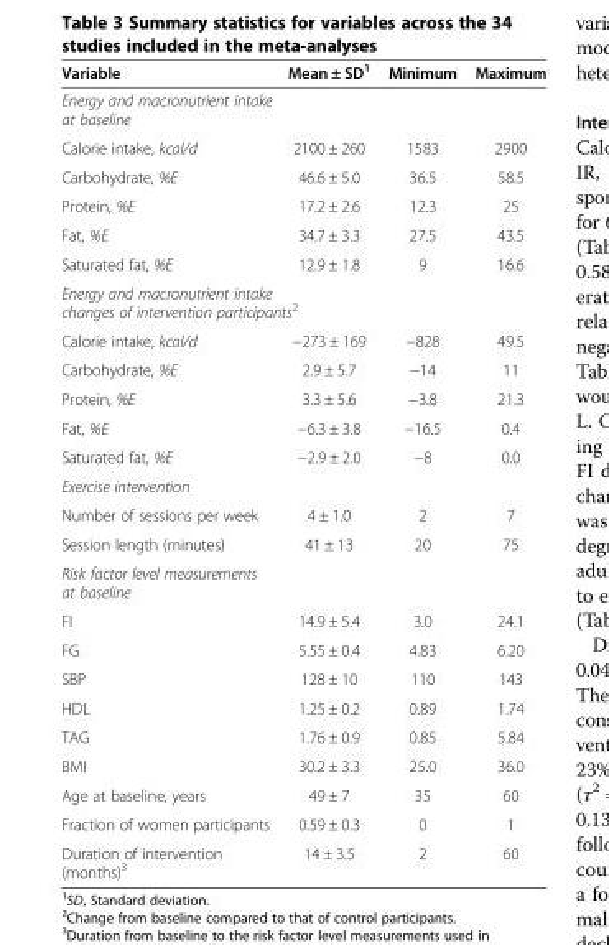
<table><thead><tr><td>Variable</td><td>Mean ± SD<sup>1</sup></td><td>Minimum</td><td>Maximum</td></tr></thead><tbody><tr><td colspan="4">Energy and macronutrient intake at baseline</td></tr><tr><td>Calorie intake, kcal/d</td><td>2100 ± 260</td><td>1583</td><td>2900</td></tr><tr><td>Carbohydrate, %E</td><td>46.6 ± 5.0</td><td>36.5</td><td>58.5</td></tr><tr><td>Protein, %E</td><td>17.2 ± 2.6</td><td>12.3</td><td>25</td></tr><tr><td>Fat, %E</td><td>34.7 ± 3.3</td><td>27.5</td><td>43.5</td></tr><tr><td>Saturated fat, %E</td><td>12.9 ± 1.8</td><td>9</td><td>16.6</td></tr><tr><td colspan="4">Energy and macronutrient intake changes of intervention participants<sup>2</sup></td></tr><tr><td>Calorie intake, kcal/d</td><td>−273 ± 169</td><td>−828</td><td>49.5</td></tr><tr><td>Carbohydrate, %E</td><td>2.9 ± 5.7</td><td>−14</td><td>11</td></tr><tr><td>Protein, %E</td><td>3.3 ± 5.6</td><td>−3.8</td><td>21.3</td></tr><tr><td>Fat, %E</td><td>−6.3 ± 3.8</td><td>−16.5</td><td>0.4</td></tr><tr><td>Saturated fat, %E</td><td>−2.9 ± 2.0</td><td>−8</td><td>0.0</td></tr><tr><td colspan="4">Exercise intervention</td></tr><tr><td>Number of sessions per week</td><td>4 ± 1.0</td><td>2</td><td>7</td></tr><tr><td>Session length (minutes)</td><td>41 ± 13</td><td>20</td><td>75</td></tr><tr><td colspan="4">Risk factor level measurements at baseline</td></tr><tr><td>FI</td><td>14.9 ± 5.4</td><td>3.0</td><td>24.1</td></tr><tr><td>FG</td><td>5.55 ± 0.4</td><td>4.83</td><td>6.20</td></tr><tr><td>SBP</td><td>128 ± 10</td><td>110</td><td>143</td></tr><tr><td>HDL</td><td>1.25 ± 0.2</td><td>0.89</td><td>1.74</td></tr><tr><td>TAG</td><td>1.76 ± 0.9</td><td>0.85</td><td>5.84</td></tr><tr><td>BMI</td><td>30.2 ± 3.3</td><td>25.0</td><td>36.0</td></tr><tr><td>Age at baseline, years</td><td>49 ± 7</td><td>35</td><td>60</td></tr><tr><td>Fraction of women participants</td><td>0.59 ± 0.3</td><td>0</td><td>1</td></tr><tr><td>Duration of intervention (months)<sup>3</sup></td><td>14 ± 3.5</td><td>2</td><td>60</td></tr></tbody></table>